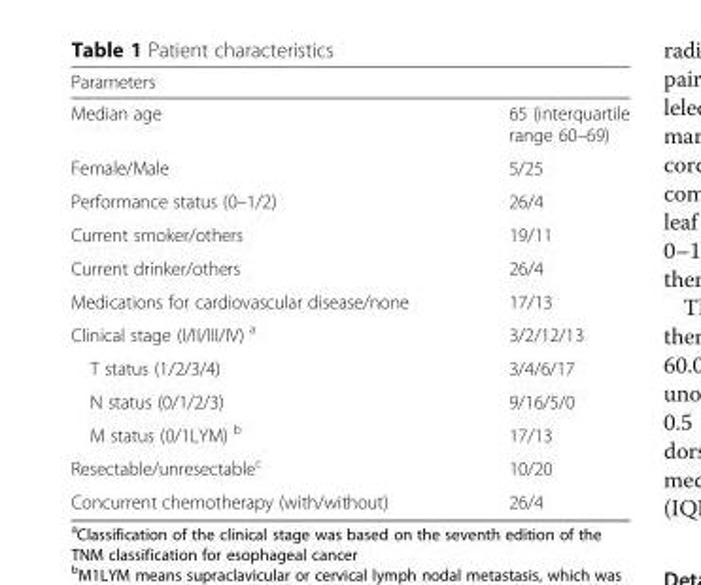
<table><thead><tr><td>Parameters</td><td></td></tr></thead><tbody><tr><td>Median age</td><td>65 (interquartile range 60–69)</td></tr><tr><td>Female/Male</td><td>5/25</td></tr><tr><td>Performance status (0–1/2)</td><td>26/4</td></tr><tr><td>Current smoker/others</td><td>19/11</td></tr><tr><td>Current drinker/others</td><td>26/4</td></tr><tr><td>Medications for cardiovascular disease/none</td><td>17/13</td></tr><tr><td>Clinical stage (I/II/III/IV) <sup>a</sup></td><td>3/2/12/13</td></tr><tr><td>T status (1/2/3/4)</td><td>3/4/6/17</td></tr><tr><td>N status (0/1/2/3)</td><td>9/16/5/0</td></tr><tr><td>M status (0/1LYM) <sup>b</sup></td><td>17/13</td></tr><tr><td>Resectable/unresectable<sup>c</sup></td><td>10/20</td></tr><tr><td>Concurrent chemotherapy (with/without)</td><td>26/4</td></tr></tbody></table>